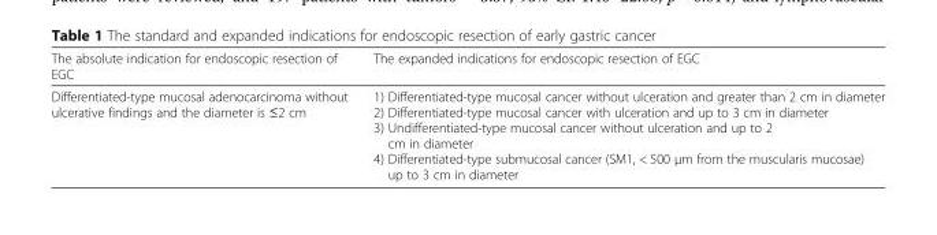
<table><thead><tr><td>The absolute indication for endoscopic resection of EGC</td><td>The expanded indications for endoscopic resection of EGC</td></tr></thead><tbody><tr><td>Differentiated-type mucosal adenocarcinoma without ulcerative findings and the diameter is ≤2 cm</td><td>1) Differentiated-type mucosal cancer without ulceration and greater than 2 cm in diameter 2) Differentiated-type mucosal cancer with ulceration and up to 3 cm in diameter 3) Undifferentiated-type mucosal cancer without ulceration and up to 2 cm in diameter 4) Differentiated-type submucosal cancer (SM1, &lt; 500 μm from the muscularis mucosae) up to 3 cm in diameter</td></tr></tbody></table>